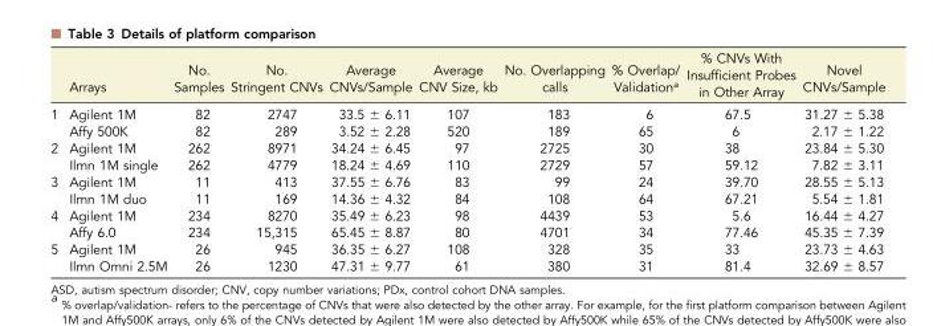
<table><thead><tr><td></td><td>Arrays</td><td>No. Samples</td><td>No. Stringent CNVs</td><td>Average CNVs/Sample</td><td>Average CNV Size, kb</td><td>No. Overlapping calls</td><td>% Overlap/ Validation<sup>a</sup></td><td>% CNVs With Insufficient Probes in Other Array</td><td>Novel CNVs/Sample</td></tr></thead><tbody><tr><td rowspan="2">1</td><td>Agilent 1M</td><td>82</td><td>2747</td><td>33.5 ± 6.11</td><td>107</td><td>183</td><td>6</td><td>67.5</td><td>31.27 ± 5.38</td></tr><tr><td>Affy 500K</td><td>82</td><td>289</td><td>3.52 ± 2.28</td><td>520</td><td>189</td><td>65</td><td>6</td><td>2.17 ± 1.22</td></tr><tr><td rowspan="2">2</td><td>Agilent 1M</td><td>262</td><td>8971</td><td>34.24 ± 6.45</td><td>97</td><td>2725</td><td>30</td><td>38</td><td>23.84 ± 5.30</td></tr><tr><td>Ilmn 1M single</td><td>262</td><td>4779</td><td>18.24 ± 4.69</td><td>110</td><td>2729</td><td>57</td><td>59.12</td><td>7.82 ± 3.11</td></tr><tr><td rowspan="2">3</td><td>Agilent 1M</td><td>11</td><td>413</td><td>37.55 ± 6.76</td><td>83</td><td>99</td><td>24</td><td>39.70</td><td>28.55 ± 5.13</td></tr><tr><td>Ilmn 1M duo</td><td>11</td><td>169</td><td>14.36 ± 4.32</td><td>84</td><td>108</td><td>64</td><td>67.21</td><td>5.54 ± 1.81</td></tr><tr><td rowspan="2">4</td><td>Agilent 1M</td><td>234</td><td>8270</td><td>35.49 ± 6.23</td><td>98</td><td>4439</td><td>53</td><td>5.6</td><td>16.44 ± 4.27</td></tr><tr><td>Affy 6.0</td><td>234</td><td>15,315</td><td>65.45 ± 8.87</td><td>80</td><td>4701</td><td>34</td><td>77.46</td><td>45.35 ± 7.39</td></tr><tr><td rowspan="2">5</td><td>Agilent 1M</td><td>26</td><td>945</td><td>36.35 ± 6.27</td><td>108</td><td>328</td><td>35</td><td>33</td><td>23.73 ± 4.63</td></tr><tr><td>Ilmn Omni 2.5M</td><td>26</td><td>1230</td><td>47.31 ± 9.77</td><td>61</td><td>380</td><td>31</td><td>81.4</td><td>32.69 ± 8.57</td></tr></tbody></table>